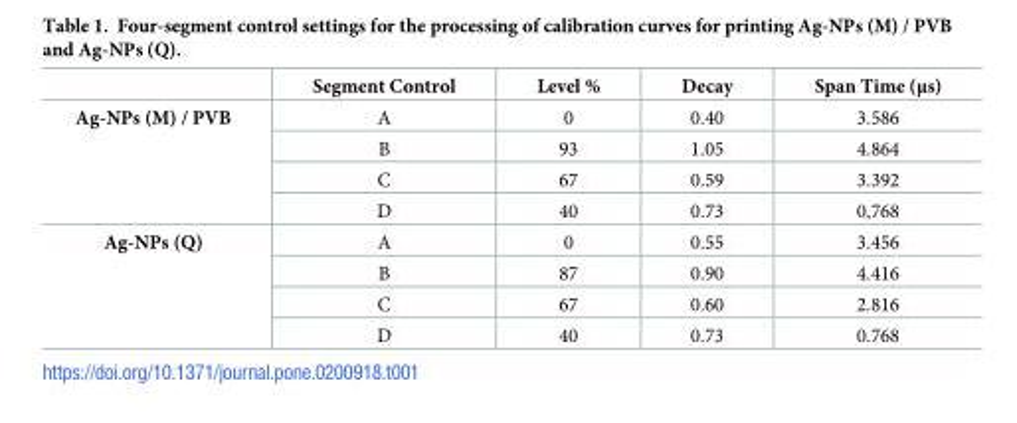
<table><thead><tr><td></td><td>Segment Control</td><td>Level %</td><td>Decay</td><td>Span Time (μs)</td></tr></thead><tbody><tr><td rowspan="4">Ag-NPs (M) / PVB</td><td>A</td><td>0</td><td>0.40</td><td>3.586</td></tr><tr><td>B</td><td>93</td><td>1.05</td><td>4.864</td></tr><tr><td>C</td><td>67</td><td>0.59</td><td>3.392</td></tr><tr><td>D</td><td>40</td><td>0.73</td><td>0,768</td></tr><tr><td rowspan="4">Ag-NPs (Q)</td><td>A</td><td>0</td><td>0.55</td><td>3.456</td></tr><tr><td>B</td><td>87</td><td>0.90</td><td>4.416</td></tr><tr><td>C</td><td>67</td><td>0.60</td><td>2.816</td></tr><tr><td>D</td><td>40</td><td>0.73</td><td>0.768</td></tr></tbody></table>